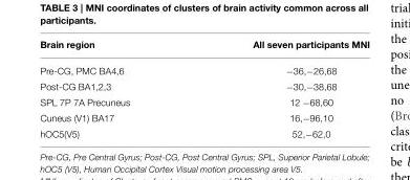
<table><thead><tr><td>Brain region</td><td>All seven participants MNI</td></tr></thead><tbody><tr><td>Pre-CG, PMC BA4,6</td><td>−36,−26,68</td></tr><tr><td>Post-CG BA1,2,3</td><td>−30,−38,68</td></tr><tr><td>SPL 7P 7A Precuneus</td><td>12 −68,60</td></tr><tr><td>Cuneus (V1) BA17</td><td>16,−96,10</td></tr><tr><td>hOC5(V5)</td><td>52,−62,0</td></tr></tbody></table>